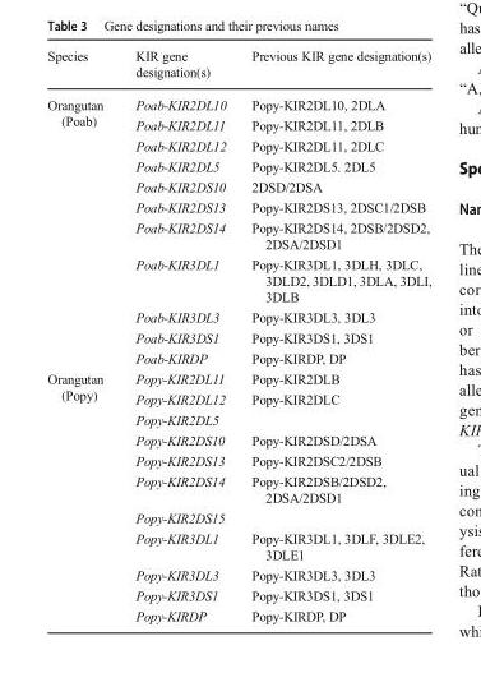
<table><thead><tr><td>Species</td><td>KIR gene designation(s)</td><td>Previous KIR gene designation(s)</td></tr></thead><tbody><tr><td rowspan="11">Orangutan (Poab)</td><td>Poab-KIR2DL10</td><td>Popy-KIR2DL10, 2DLA</td></tr><tr><td>Poab-KIR2DL11</td><td>Popy-KIR2DL11, 2DLB</td></tr><tr><td>Poab-KIR2DL12</td><td>Popy-KIR2DL11, 2DLC</td></tr><tr><td>Poab-KIR2DL5</td><td>Popy-KIR2DL5. 2DL5</td></tr><tr><td>Poab-KIR2DS10</td><td>2DSD/2DSA</td></tr><tr><td>Poab-KIR2DS13</td><td>Popy-KIR2DS13, 2DSC1/2DSB</td></tr><tr><td>Poab-KIR2DS14</td><td>Popy-KIR2DS14, 2DSB/2DSD2, 2DSA/2DSD1</td></tr><tr><td>Poab-KIR3DL1</td><td>Popy-KIR3DL1, 3DLH, 3DLC, 3DLD2, 3DLD1, 3DLA, 3DLI, 3DLB</td></tr><tr><td>Poab-KIR3DL3</td><td>Popy-KIR3DL3, 3DL3</td></tr><tr><td>Poab-KIR3DS1</td><td>Popy-KIR3DS1, 3DS1</td></tr><tr><td>Poab-KIRDP</td><td>Popy-KIRDP, DP</td></tr><tr><td rowspan="11">Orangutan (Popy)</td><td>Popy-KIR2DL11</td><td>Popy-KIR2DLB</td></tr><tr><td>Popy-KIR2DL12</td><td>Popy-KIR2DLC</td></tr><tr><td>Popy-KIR2DL5</td><td></td></tr><tr><td>Popy-KIR2DS10</td><td>Popy-KIR2DSD/2DSA</td></tr><tr><td>Popy-KIR2DS13</td><td>Popy-KIR2DSC2/2DSB</td></tr><tr><td>Popy-KIR2DS14</td><td>Popy-KIR2DSB/2DSD2, 2DSA/2DSD1</td></tr><tr><td>Popy-KIR2DS15</td><td></td></tr><tr><td>Popy-KIR3DL1</td><td>Popy-KIR3DL1, 3DLF, 3DLE2, 3DLE1</td></tr><tr><td>Popy-KIR3DL3</td><td>Popy-KIR3DL3, 3DL3</td></tr><tr><td>Popy-KIR3DS1</td><td>Popy-KIR3DS1, 3DS1</td></tr><tr><td>Popy-KIRDP</td><td>Popy-KIRDP, DP</td></tr></tbody></table>